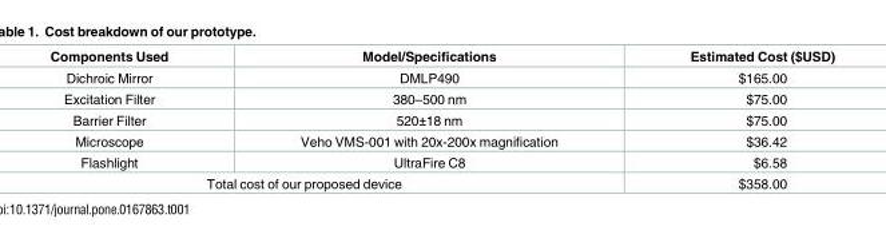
<table><thead><tr><td>Components Used</td><td>Model/Specifications</td><td>Estimated Cost ($USD)</td></tr></thead><tbody><tr><td>Dichroic Mirror</td><td>DMLP490</td><td>$165.00</td></tr><tr><td>Excitation Filter</td><td>380–500 nm</td><td>$75.00</td></tr><tr><td>Barrier Filter</td><td>520±18 nm</td><td>$75.00</td></tr><tr><td>Microscope</td><td>Veho VMS-001 with 20x-200x magnification</td><td>$36.42</td></tr><tr><td>Flashlight</td><td>UltraFire C8</td><td>$6.58</td></tr><tr><td colspan="2">Total cost of our proposed device</td><td>$358.00</td></tr></tbody></table>